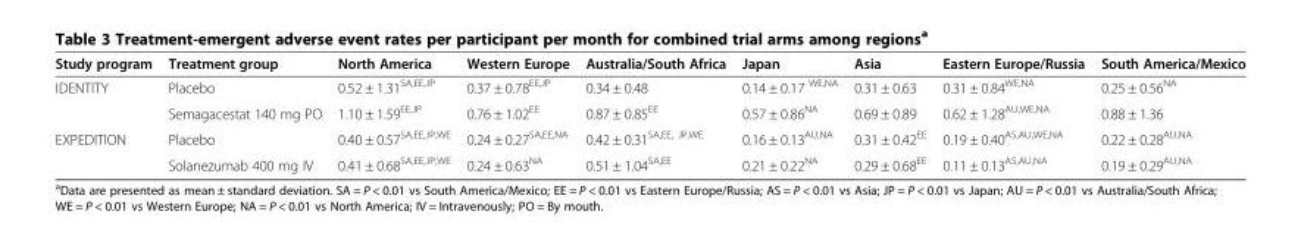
<table><thead><tr><td>Study program</td><td>Treatment group</td><td>North America</td><td>Western Europe</td><td>Australia/South Africa</td><td>Japan</td><td>Asia</td><td>Eastern Europe/Russia</td><td>South America/Mexico</td></tr></thead><tbody><tr><td rowspan="2">IDENTITY</td><td>Placebo</td><td>0.52 ± 1.31<sup>SA,EE,JP</sup></td><td>0.37 ± 0.78<sup>EE,JP</sup></td><td>0.34 ± 0.48</td><td>0.14 ± 0.17 <sup>WE,NA</sup></td><td>0.31 ± 0.63</td><td>0.31 ± 0.84<sup>WE,NA</sup></td><td>0.25 ± 0.56<sup>NA</sup></td></tr><tr><td>Semagacestat 140 mg PO</td><td>1.10 ± 1.59<sup>EE,JP</sup></td><td>0.76 ± 1.02<sup>EE</sup></td><td>0.87 ± 0.85<sup>EE</sup></td><td>0.57 ± 0.86<sup>NA</sup></td><td>0.69 ± 0.89</td><td>0.62 ± 1.28<sup>AU,WE,NA</sup></td><td>0.88 ± 1.36</td></tr><tr><td rowspan="2">EXPEDITION</td><td>Placebo</td><td>0.40 ± 0.57<sup>SA,EE,JP,WE</sup></td><td>0.24 ± 0.27<sup>SA,EE,NA</sup></td><td>0.42 ± 0.31<sup>SA,EE, JP,WE</sup></td><td>0.16 ± 0.13<sup>AU,NA</sup></td><td>0.31 ± 0.42<sup>EE</sup></td><td>0.19 ± 0.40<sup>AS,AU,WE,NA</sup></td><td>0.22 ± 0.28<sup>AU,NA</sup></td></tr><tr><td>Solanezumab 400 mg IV</td><td>0.41 ± 0.68<sup>SA,EE,JP,WE</sup></td><td>0.24 ± 0.63<sup>NA</sup></td><td>0.51 ± 1.04<sup>SA,EE</sup></td><td>0.21 ± 0.22<sup>NA</sup></td><td>0.29 ± 0.68<sup>EE</sup></td><td>0.11 ± 0.13<sup>AS,AU,NA</sup></td><td>0.19 ± 0.29<sup>AU,NA</sup></td></tr></tbody></table>